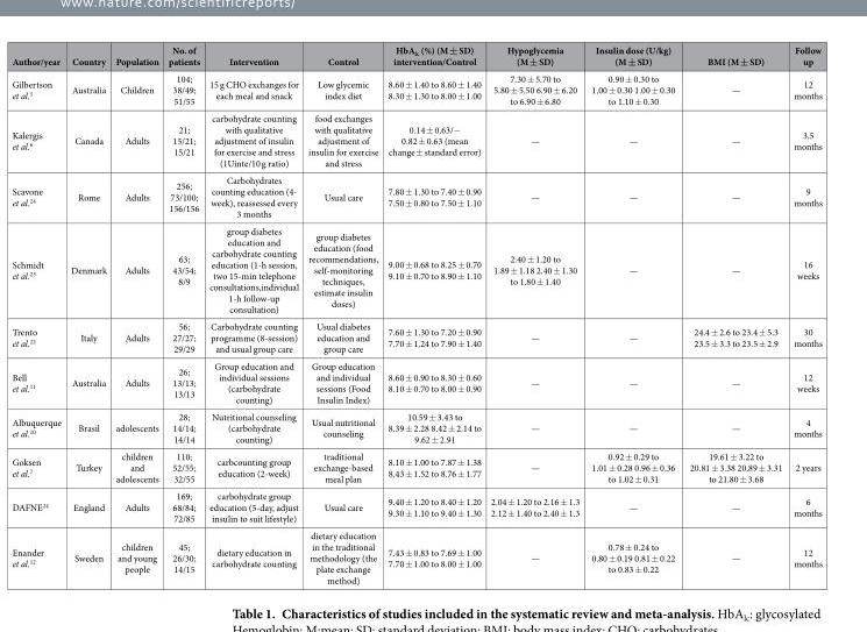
<table><thead><tr><td>Author/year</td><td>Country</td><td>Population</td><td>No. of patients</td><td>Intervention</td><td>Control</td><td>HbA<sub>lc</sub> (%) (M ± SD) intervention/Control</td><td>Hypoglycemia (M ± SD)</td><td>Insulin dose (U/kg) (M ± SD)</td><td>BMI (M ± SD)</td><td>Follow up</td></tr></thead><tbody><tr><td>Gilbertson et al.<sup>5</sup></td><td>Australia</td><td>Children</td><td>104; 38/49; 51/55</td><td>15 g CHO exchanges for each meal and snack</td><td>Low glycemic index diet</td><td>8.60 ± 1.40 to 8.60 ± 1.40 8.30 ± 1.30 to 8.00 ± 1.00</td><td>7.30 ± 5.70 to 5.80 ± 5.50 6.90 ± 6.20 to 6.90 ± 6.80</td><td>0.90 ± 0.30 to 1.00 ± 0.30 1.00 ± 0.30 to 1.10 ± 0.30</td><td>—</td><td>12 months</td></tr><tr><td>Kalergis et al.<sup>6</sup></td><td>Canada</td><td>Adults</td><td>21; 15/21; 15/21</td><td>carbohydrate counting with qualitative adjustment of insulin for exercise and stress (1Uinte/10 g ratio)</td><td>food exchanges with qualitative adjustment of insulin for exercise and stress</td><td>0.14 ± 0.63/− 0.82 ± 0.63 (mean change ± standard error)</td><td>—</td><td>—</td><td>—</td><td>3.5 months</td></tr><tr><td>Scavone et al.<sup>24</sup></td><td>Rome</td><td>Adults</td><td>256; 73/100; 156/156</td><td>Carbohydrates counting education (4- week), reassessed every 3 months</td><td>Usual care</td><td>7.80 ± 1.30 to 7.40 ± 0.90 7.50 ± 0.80 to 7.50 ± 1.10</td><td>—</td><td>—</td><td>—</td><td>9 months</td></tr><tr><td>Schmidt et al.<sup>23</sup></td><td>Denmark</td><td>Adults</td><td>63; 43/54; 8/9</td><td>group diabetes education and carbohydrate counting education (1-h session, two 15-min telephone consultations,individual 1-h follow-up consultation)</td><td>group diabetes education (food recommendations, self-monitoring techniques, estimate insulin doses)</td><td>9.00 ± 0.68 to 8.25 ± 0.70 9.10 ± 0.70 to 8.90 ± 1.10</td><td>2.40 ± 1.20 to 1.89 ± 1.18 2.40 ± 1.30 to 1.80 ± 1.40</td><td>—</td><td>—</td><td>16 weeks</td></tr><tr><td>Trento et al.<sup>22</sup></td><td>Italy</td><td>Adults</td><td>56; 27/27; 29/29</td><td>Carbohydrate counting programme (8-session) and usual group care</td><td>Usual diabetes education and group care</td><td>7.60 ± 1.30 to 7.20 ± 0.90 7.70 ± 1.24 to 7.90 ± 1.40</td><td>—</td><td>—</td><td>24.4 ± 2.6 to 23.4 ± 5.3 23.5 ± 3.3 to 23.5 ± 2.9</td><td>30 months</td></tr><tr><td>Bell et al.<sup>11</sup></td><td>Australia</td><td>Adults</td><td>26; 13/13; 13/13</td><td>Group education and individual sessions (carbohydrate counting)</td><td>Group education and individual sessions (Food Insulin Index)</td><td>8.60 ± 0.90 to 8.30 ± 0.60 8.10 ± 0.70 to 8.00 ± 0.90</td><td>—</td><td>—</td><td>—</td><td>12 weeks</td></tr><tr><td>Albuquerque et al.<sup>10</sup></td><td>Brasil</td><td>adolescents</td><td>28; 14/14; 14/14</td><td>Nutritional counseling (carbohydrate counting)</td><td>Usual nutritional counseling</td><td>10.59 ± 3.43 to 8.39 ± 2.28 8.42 ± 2.14 to 9.62 ± 2.91</td><td>—</td><td>—</td><td>—</td><td>4 months</td></tr><tr><td>Goksen et al.<sup>7</sup></td><td>Turkey</td><td>children and adolescents</td><td>110; 52/55; 32/55</td><td>carbcounting group education (2-week)</td><td>traditional exchange-based meal plan</td><td>8.10 ± 1.00 to 7.87 ± 1.38 8.43 ± 1.52 to 8.76 ± 1.77</td><td>—</td><td>0.92 ± 0.29 to 1.01 ± 0.28 0.96 ± 0.36 to 1.02 ± 0.31</td><td>19.61 ± 3.22 to 20.81 ± 3.38 20.89 ± 3.31 to 21.80 ± 3.68</td><td>2 years</td></tr><tr><td>DAFNE<sup>24</sup></td><td>England</td><td>Adults</td><td>169; 68/84; 72/85</td><td>carbohydrate group education (5-day, adjust insulin to suit lifestyle)</td><td>Usual care</td><td>9.40 ± 1.20 to 8.40 ± 1.20 9.30 ± 1.10 to 9.40 ± 1.30</td><td>2.04 ± 1.20 to 2.16 ± 1.3 2.12 ± 1.40 to 2.40 ± 1.3</td><td>—</td><td>—</td><td>6 months</td></tr><tr><td>Enander et al.<sup>12</sup></td><td>Sweden</td><td>children and young people</td><td>45; 26/30; 14/15</td><td>dietary education in carbohydrate counting</td><td>dietary education in the traditional methodology (the plate exchange method)</td><td>7.43 ± 0.83 to 7.69 ± 1.00 7.70 ± 1.00 to 8.00 ± 1.00</td><td>—</td><td>0.78 ± 0.24 to 0.80 ± 0.19 0.81 ± 0.22 to 0.83 ± 0.22</td><td>—</td><td>12 months</td></tr></tbody></table>